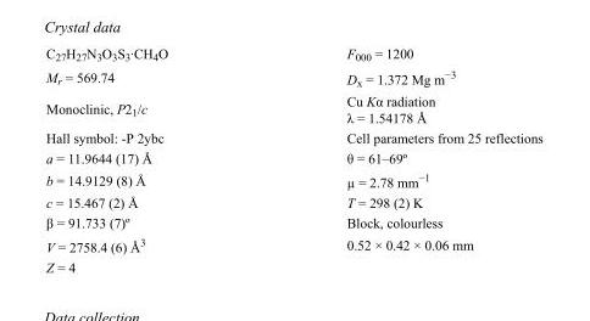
<table><tbody><tr><td>C<sub>27</sub>H<sub>27</sub>N<sub>3</sub>O<sub>3</sub>S<sub>3</sub>·CH<sub>4</sub>O</td><td>F<sub>000</sub> = 1200</td></tr><tr><td>M<sub>r</sub> = 569.74</td><td>D<sub>x</sub> = 1.372 Mg m<sup>−3</sup></td></tr><tr><td>Monoclinic, P2<sub>1</sub>/c</td><td>Cu Kα radiation λ = 1.54178 Å</td></tr><tr><td>Hall symbol: -P 2ybc</td><td>Cell parameters from 25 reflections</td></tr><tr><td>a = 11.9644 (17) Å</td><td>θ = 61–69º</td></tr><tr><td>b = 14.9129 (8) Å</td><td>µ = 2.78 mm<sup>−1</sup></td></tr><tr><td>c = 15.467 (2) Å</td><td>T = 298 (2) K</td></tr><tr><td>β = 91.733 (7)º</td><td>Block, colourless</td></tr><tr><td>V = 2758.4 (6) Å<sup>3</sup></td><td>0.52 × 0.42 × 0.06 mm</td></tr><tr><td>Z = 4</td><td></td></tr></tbody></table>